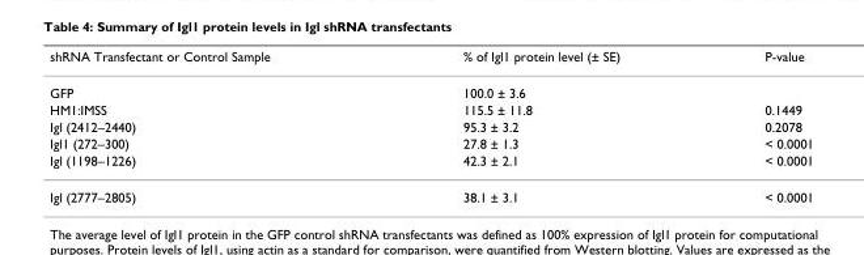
<table><thead><tr><td>shRNA Transfectant or Control Sample</td><td>% of Igl1 protein level (± SE)</td><td>P-value</td></tr></thead><tbody><tr><td>GFP</td><td>100.0 ± 3.6</td><td></td></tr><tr><td>HM1:IMSS</td><td>115.5 ± 11.8</td><td>0.1449</td></tr><tr><td>Igl (2412–2440)</td><td>95.3 ± 3.2</td><td>0.2078</td></tr><tr><td>Igl1 (272–300)</td><td>27.8 ± 1.3</td><td>&lt; 0.0001</td></tr><tr><td>Igl (1198–1226)</td><td>42.3 ± 2.1</td><td>&lt; 0.0001</td></tr><tr><td>Igl (2777–2805)</td><td>38.1 ± 3.1</td><td>&lt; 0.0001</td></tr></tbody></table>